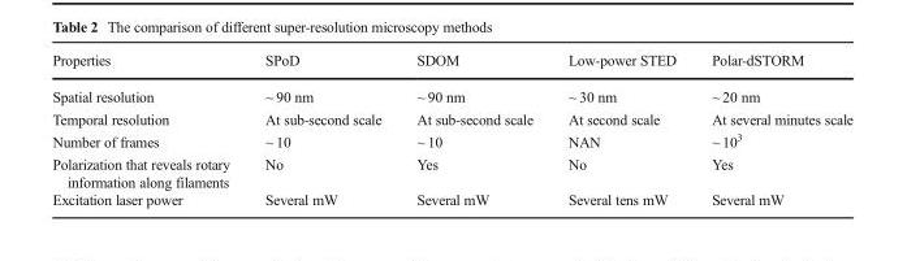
<table><thead><tr><td>Properties</td><td>SPoD</td><td>SDOM</td><td>Low-power STED</td><td>Polar-dSTORM</td></tr></thead><tbody><tr><td>Spatial resolution</td><td>~ 90 nm</td><td>~ 90 nm</td><td>~ 30 nm</td><td>~ 20 nm</td></tr><tr><td>Temporal resolution</td><td>At sub-second scale</td><td>At sub-second scale</td><td>At second scale</td><td>At several minutes scale</td></tr><tr><td>Number of frames</td><td>~ 10</td><td>~ 10</td><td>NAN</td><td>~ 10<sup>3</sup></td></tr><tr><td>Polarization that reveals rotary information along filaments</td><td>No</td><td>Yes</td><td>No</td><td>Yes</td></tr><tr><td>Excitation laser power</td><td>Several mW</td><td>Several mW</td><td>Several tens mW</td><td>Several mW</td></tr></tbody></table>